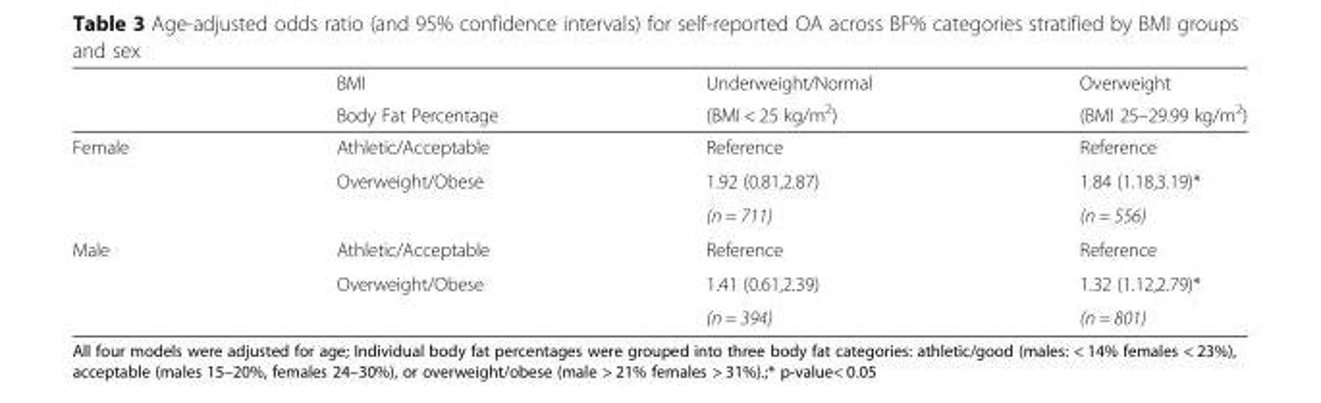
<table><thead><tr><td rowspan="2"></td><td rowspan="2">BMI Body Fat Percentage</td><td rowspan="2">Underweight/Normal (BMI &lt; 25 kg/m<sup>2</sup>)</td><td rowspan="2">Overweight (BMI 25–29.99 kg/m<sup>2</sup>)</td></tr><tr></tr></thead><tbody><tr><td rowspan="3">Female</td><td>Athletic/Acceptable</td><td>Reference</td><td>Reference</td></tr><tr><td rowspan="2">Overweight/Obese</td><td>1.92 (0.81,2.87)</td><td>1.84 (1.18,3.19)*</td></tr><tr><td>(n = 711)</td><td>(n = 556)</td></tr><tr><td rowspan="3">Male</td><td>Athletic/Acceptable</td><td>Reference</td><td>Reference</td></tr><tr><td rowspan="2">Overweight/Obese</td><td>1.41 (0.61,2.39)</td><td>1.32 (1.12,2.79)*</td></tr><tr><td>(n = 394)</td><td>(n = 801)</td></tr></tbody></table>